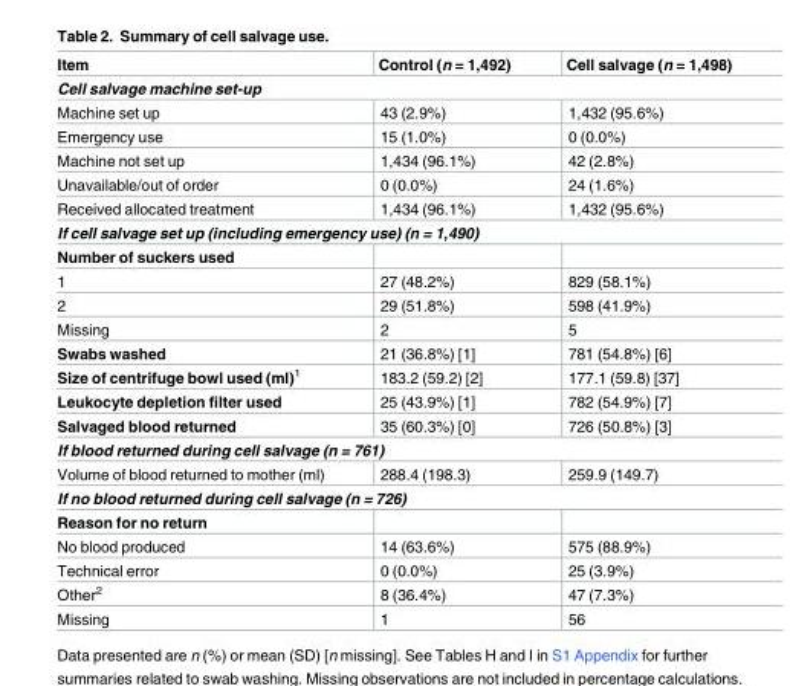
<table><thead><tr><td>Item</td><td>Control (n = 1,492)</td><td>Cell salvage (n = 1,498)</td></tr></thead><tbody><tr><td colspan="3">Cell salvage machine set-up</td></tr><tr><td>Machine set up</td><td>43 (2.9%)</td><td>1,432 (95.6%)</td></tr><tr><td>Emergency use</td><td>15 (1.0%)</td><td>0 (0.0%)</td></tr><tr><td>Machine not set up</td><td>1,434 (96.1%)</td><td>42 (2.8%)</td></tr><tr><td>Unavailable/out of order</td><td>0 (0.0%)</td><td>24 (1.6%)</td></tr><tr><td>Received allocated treatment</td><td>1,434 (96.1%)</td><td>1,432 (95.6%)</td></tr><tr><td colspan="3">If cell salvage set up (including emergency use) (n = 1,490)</td></tr><tr><td colspan="3">Number of suckers used</td></tr><tr><td>1</td><td>27 (48.2%)</td><td>829 (58.1%)</td></tr><tr><td>2</td><td>29 (51.8%)</td><td>598 (41.9%)</td></tr><tr><td>Missing</td><td>2</td><td>5</td></tr><tr><td>Swabs washed</td><td>21 (36.8%) [1]</td><td>781 (54.8%) [6]</td></tr><tr><td>Size of centrifuge bowl used (ml)<sup>1</sup></td><td>183.2 (59.2) [2]</td><td>177.1 (59.8) [37]</td></tr><tr><td>Leukocyte depletion filter used</td><td>25 (43.9%) [1]</td><td>782 (54.9%) [7]</td></tr><tr><td>Salvaged blood returned</td><td>35 (60.3%) [0]</td><td>726 (50.8%) [3]</td></tr><tr><td colspan="3">If blood returned during cell salvage (n = 761)</td></tr><tr><td>Volume of blood returned to mother (ml)</td><td>288.4 (198.3)</td><td>259.9 (149.7)</td></tr><tr><td colspan="3">If no blood returned during cell salvage (n = 726)</td></tr><tr><td colspan="3">Reason for no return</td></tr><tr><td>No blood produced</td><td>14 (63.6%)</td><td>575 (88.9%)</td></tr><tr><td>Technical error</td><td>0 (0.0%)</td><td>25 (3.9%)</td></tr><tr><td>Other<sup>2</sup></td><td>8 (36.4%)</td><td>47 (7.3%)</td></tr><tr><td>Missing</td><td>1</td><td>56</td></tr></tbody></table>